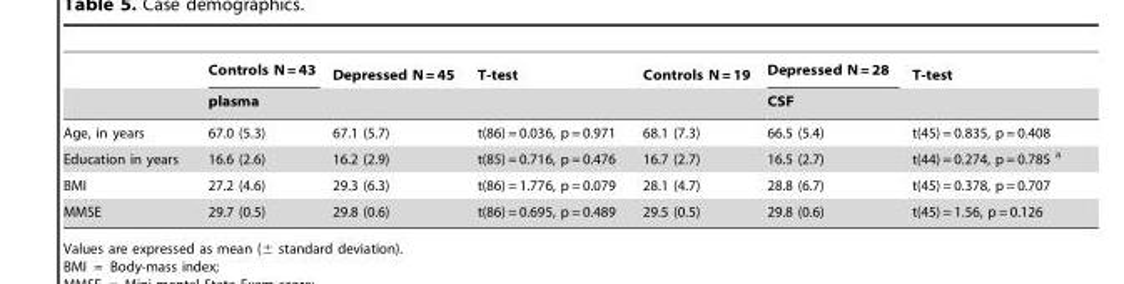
<table><thead><tr><td rowspan="2"></td><td rowspan="2">Controls N = 43 plasma</td><td rowspan="2">Depressed N = 45</td><td rowspan="2">T-test</td><td rowspan="2">Controls N = 19</td><td rowspan="2">Depressed N = 28 CSF</td><td rowspan="2">T-test</td></tr><tr></tr></thead><tbody><tr><td>Age, in years</td><td>67.0 (5.3)</td><td>67.1 (5.7)</td><td>t(86) = 0.036, p = 0.971</td><td>68.1 (7.3)</td><td>66.5 (5.4)</td><td>t(45) = 0.835, p = 0.408</td></tr><tr><td>Education in years</td><td>16.6 (2.6)</td><td>16.2 (2.9)</td><td>t(85) = 0.716, p = 0.476</td><td>16.7 (2.7)</td><td>16.5 (2.7)</td><td>t(44) = 0.274, p = 0.785 a</td></tr><tr><td>BMI</td><td>27.2 (4.6)</td><td>29.3 (6.3)</td><td>t(86) = 1.776, p = 0.079</td><td>28.1 (4.7)</td><td>28.8 (6.7)</td><td>t(45) = 0.378, p = 0.707</td></tr><tr><td>MMSE</td><td>29.7 (0.5)</td><td>29.8 (0.6)</td><td>t(86) = 0.695, p = 0.489</td><td>29.5 (0.5)</td><td>29.8 (0.6)</td><td>t(45) = 1.56, p = 0.126</td></tr></tbody></table>